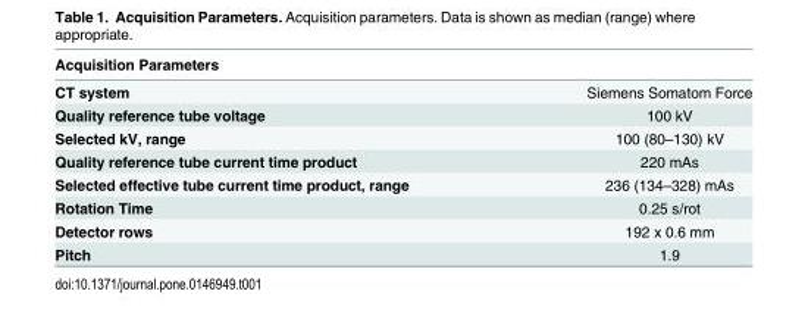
<table><thead><tr><td>Acquisition Parameters</td><td></td></tr></thead><tbody><tr><td>CT system</td><td>Siemens Somatom Force</td></tr><tr><td>Quality reference tube voltage</td><td>100 kV</td></tr><tr><td>Selected kV, range</td><td>100 (80–130) kV</td></tr><tr><td>Quality reference tube current time product</td><td>220 mAs</td></tr><tr><td>Selected effective tube current time product, range</td><td>236 (134–328) mAs</td></tr><tr><td>Rotation Time</td><td>0.25 s/rot</td></tr><tr><td>Detector rows</td><td>192 x 0.6 mm</td></tr><tr><td>Pitch</td><td>1.9</td></tr></tbody></table>